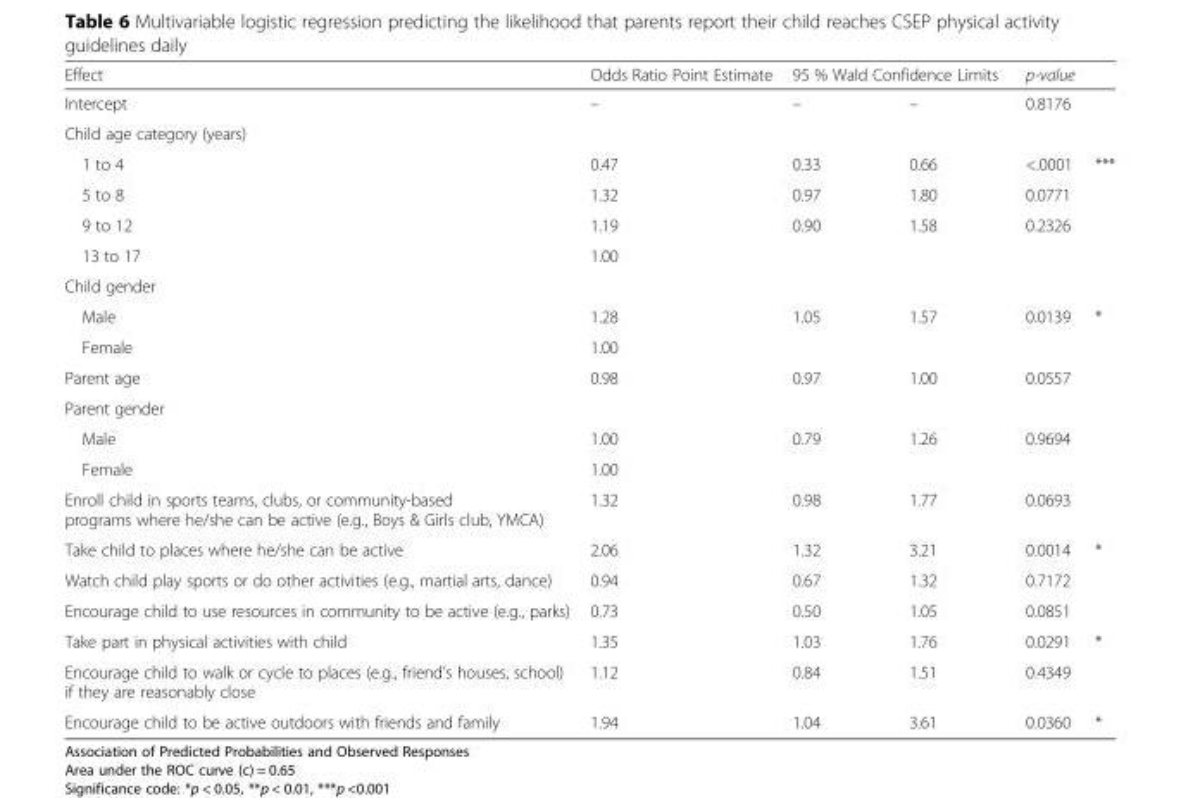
<table><thead><tr><td rowspan="2">Effect Intercept</td><td rowspan="2">Odds Ratio Point Estimate –</td><td colspan="2">95 % Wald Confidence Limits</td><td rowspan="2">p-value 0.8176</td><td rowspan="2"></td></tr><tr><td>–</td><td>–</td></tr></thead><tbody><tr><td colspan="6">Child age category (years)</td></tr><tr><td>1 to 4</td><td>0.47</td><td>0.33</td><td>0.66</td><td>&lt;.0001</td><td>***</td></tr><tr><td>5 to 8</td><td>1.32</td><td>0.97</td><td>1.80</td><td>0.0771</td><td></td></tr><tr><td>9 to 12</td><td>1.19</td><td>0.90</td><td>1.58</td><td>0.2326</td><td></td></tr><tr><td>13 to 17</td><td>1.00</td><td></td><td></td><td></td><td></td></tr><tr><td colspan="6">Child gender</td></tr><tr><td>Male</td><td>1.28</td><td>1.05</td><td>1.57</td><td>0.0139</td><td>*</td></tr><tr><td>Female</td><td>1.00</td><td></td><td></td><td></td><td></td></tr><tr><td>Parent age</td><td>0.98</td><td>0.97</td><td>1.00</td><td>0.0557</td><td></td></tr><tr><td colspan="6">Parent gender</td></tr><tr><td>Male</td><td>1.00</td><td>0.79</td><td>1.26</td><td>0.9694</td><td></td></tr><tr><td>Female</td><td>1.00</td><td></td><td></td><td></td><td></td></tr><tr><td>Enroll child in sports teams, clubs, or community-based programs where he/she can be active (e.g., Boys &amp; Girls club, YMCA)</td><td>1.32</td><td>0.98</td><td>1.77</td><td>0.0693</td><td></td></tr><tr><td>Take child to places where he/she can be active</td><td>2.06</td><td>1.32</td><td>3.21</td><td>0.0014</td><td>*</td></tr><tr><td>Watch child play sports or do other activities (e.g., martial arts, dance)</td><td>0.94</td><td>0.67</td><td>1.32</td><td>0.7172</td><td></td></tr><tr><td>Encourage child to use resources in community to be active (e.g., parks)</td><td>0.73</td><td>0.50</td><td>1.05</td><td>0.0851</td><td></td></tr><tr><td>Take part in physical activities with child</td><td>1.35</td><td>1.03</td><td>1.76</td><td>0.0291</td><td>*</td></tr><tr><td>Encourage child to walk or cycle to places (e.g., friend’s houses, school) if they are reasonably close</td><td>1.12</td><td>0.84</td><td>1.51</td><td>0.4349</td><td></td></tr><tr><td>Encourage child to be active outdoors with friends and family</td><td>1.94</td><td>1.04</td><td>3.61</td><td>0.0360</td><td>*</td></tr></tbody></table>